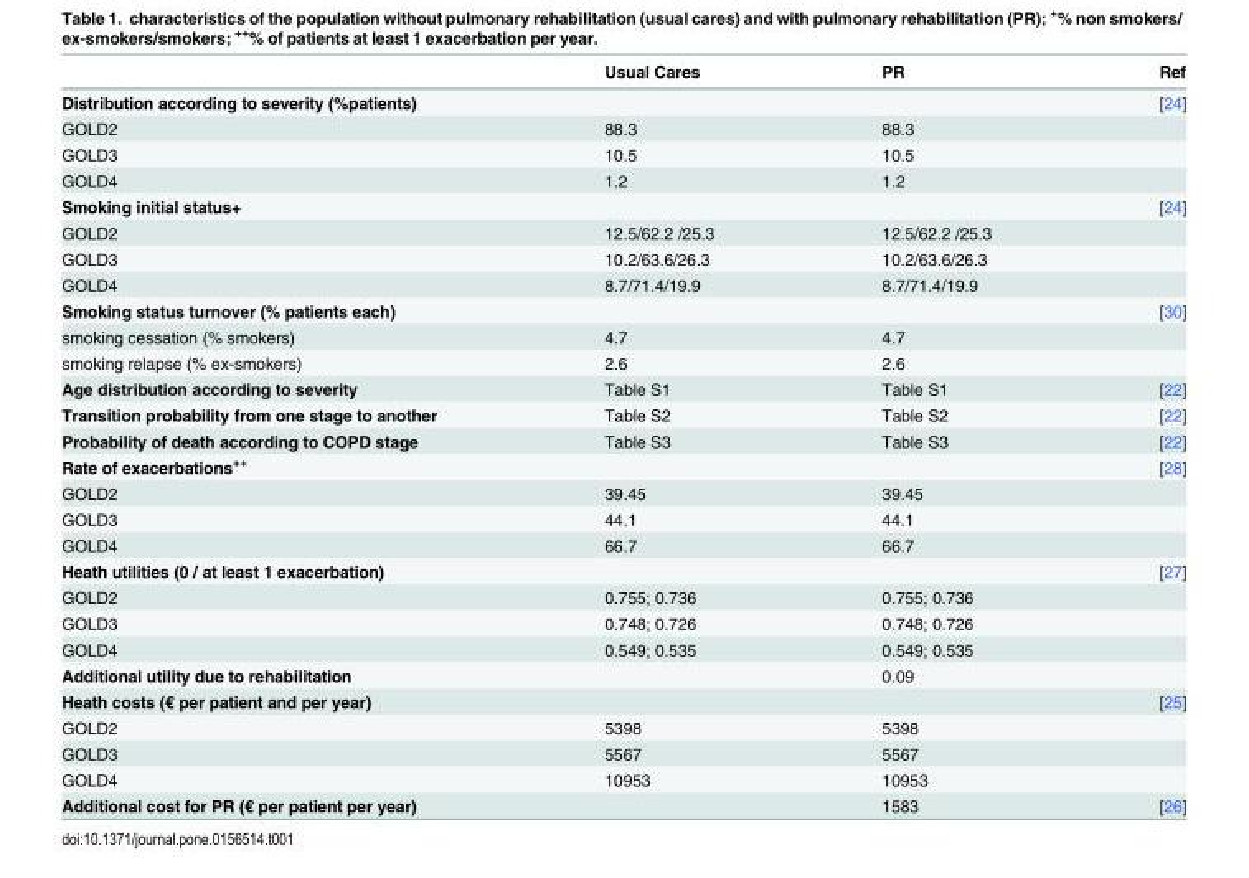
<table><thead><tr><td></td><td>Usual Cares</td><td>PR</td><td>Ref</td></tr></thead><tbody><tr><td>Distribution according to severity (%patients)</td><td></td><td></td><td>[24]</td></tr><tr><td>GOLD2</td><td>88.3</td><td>88.3</td><td></td></tr><tr><td>GOLD3</td><td>10.5</td><td>10.5</td><td></td></tr><tr><td>GOLD4</td><td>1.2</td><td>1.2</td><td></td></tr><tr><td>Smoking initial status+</td><td></td><td></td><td>[24]</td></tr><tr><td>GOLD2</td><td>12.5/62.2 /25.3</td><td>12.5/62.2 /25.3</td><td></td></tr><tr><td>GOLD3</td><td>10.2/63.6/26.3</td><td>10.2/63.6/26.3</td><td></td></tr><tr><td>GOLD4</td><td>8.7/71.4/19.9</td><td>8.7/71.4/19.9</td><td></td></tr><tr><td>Smoking status turnover (% patients each)</td><td></td><td></td><td>[30]</td></tr><tr><td>smoking cessation (% smokers)</td><td>4.7</td><td>4.7</td><td></td></tr><tr><td>smoking relapse (% ex-smokers)</td><td>2.6</td><td>2.6</td><td></td></tr><tr><td>Age distribution according to severity</td><td>Table S1</td><td>Table S1</td><td>[22]</td></tr><tr><td>Transition probability from one stage to another</td><td>Table S2</td><td>Table S2</td><td>[22]</td></tr><tr><td>Probability of death according to COPD stage</td><td>Table S3</td><td>Table S3</td><td>[22]</td></tr><tr><td>Rate of exacerbations<sup>++</sup></td><td></td><td></td><td>[28]</td></tr><tr><td>GOLD2</td><td>39.45</td><td>39.45</td><td></td></tr><tr><td>GOLD3</td><td>44.1</td><td>44.1</td><td></td></tr><tr><td>GOLD4</td><td>66.7</td><td>66.7</td><td></td></tr><tr><td>Heath utilities (0 / at least 1 exacerbation)</td><td></td><td></td><td>[27]</td></tr><tr><td>GOLD2</td><td>0.755; 0.736</td><td>0.755; 0.736</td><td></td></tr><tr><td>GOLD3</td><td>0.748; 0.726</td><td>0.748; 0.726</td><td></td></tr><tr><td>GOLD4</td><td>0.549; 0.535</td><td>0.549; 0.535</td><td></td></tr><tr><td>Additional utility due to rehabilitation</td><td></td><td>0.09</td><td></td></tr><tr><td>Heath costs (€ per patient and per year)</td><td></td><td></td><td>[25]</td></tr><tr><td>GOLD2</td><td>5398</td><td>5398</td><td></td></tr><tr><td>GOLD3</td><td>5567</td><td>5567</td><td></td></tr><tr><td>GOLD4</td><td>10953</td><td>10953</td><td></td></tr><tr><td>Additional cost for PR (€ per patient per year)</td><td></td><td>1583</td><td>[26]</td></tr></tbody></table>